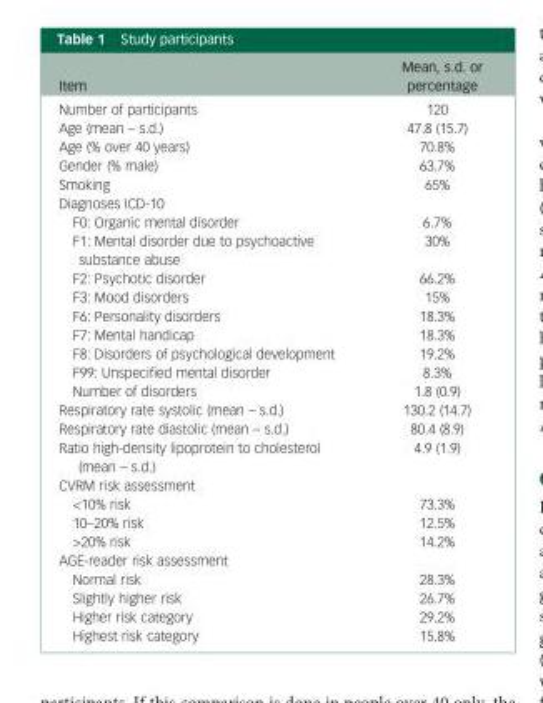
<table><thead><tr><td>Item</td><td>Mean, s.d. or percentage</td></tr></thead><tbody><tr><td>Number of participants</td><td>120</td></tr><tr><td>Age (mean – s.d.)</td><td>47.8 (15.7)</td></tr><tr><td>Age (% over 40 years)</td><td>70.8%</td></tr><tr><td>Gender (% male)</td><td>63.7%</td></tr><tr><td>Smoking</td><td>65%</td></tr><tr><td colspan="2">Diagnoses ICD-10</td></tr><tr><td>F0: Organic mental disorder</td><td>6.7%</td></tr><tr><td>F1: Mental disorder due to psychoactive substance abuse</td><td>30%</td></tr><tr><td>F2: Psychotic disorder</td><td>66.2%</td></tr><tr><td>F3: Mood disorders</td><td>15%</td></tr><tr><td>F6: Personality disorders</td><td>18.3%</td></tr><tr><td>F7: Mental handicap</td><td>18.3%</td></tr><tr><td>F8: Disorders of psychological development</td><td>19.2%</td></tr><tr><td>F99: Unspecified mental disorder</td><td>8.3%</td></tr><tr><td>Number of disorders</td><td>1.8 (0.9)</td></tr><tr><td>Respiratory rate systolic (mean – s.d.)</td><td>130.2 (14.7)</td></tr><tr><td>Respiratory rate diastolic (mean – s.d.)</td><td>80.4 (8.9)</td></tr><tr><td>Ratio high-density lipoprotein to cholesterol (mean – s.d.)</td><td>4.9 (1.9)</td></tr><tr><td colspan="2">CVRM risk assessment</td></tr><tr><td>&lt;10% risk</td><td>73.3%</td></tr><tr><td>10–20% risk</td><td>12.5%</td></tr><tr><td>&gt;20% risk</td><td>14.2%</td></tr><tr><td colspan="2">AGE-reader risk assessment</td></tr><tr><td>Normal risk</td><td>28.3%</td></tr><tr><td>Slightly higher risk</td><td>26.7%</td></tr><tr><td>Higher risk category</td><td>29.2%</td></tr><tr><td>Highest risk category</td><td>15.8%</td></tr></tbody></table>